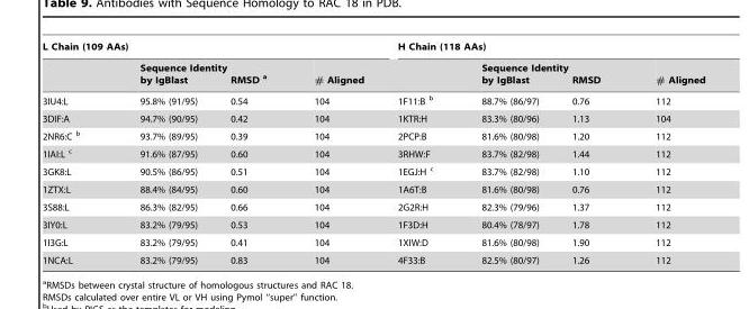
<table><thead><tr><td colspan="4">L Chain (109 AAs)</td><td colspan="4">H Chain (118 AAs)</td></tr><tr><td></td><td>Sequence Identity by IgBlast</td><td>RMSD a</td><td># Aligned</td><td></td><td>Sequence Identity by IgBlast</td><td>RMSD</td><td># Aligned</td></tr></thead><tbody><tr><td>3IU4:L</td><td>95.8% (91/95)</td><td>0.54</td><td>104</td><td>1F11:B b</td><td>88.7% (86/97)</td><td>0.76</td><td>112</td></tr><tr><td>3DIF:A</td><td>94.7% (90/95)</td><td>0.42</td><td>104</td><td>1KTR:H</td><td>83.3% (80/96)</td><td>1.13</td><td>104</td></tr><tr><td>2NR6:C b</td><td>93.7% (89/95)</td><td>0.39</td><td>104</td><td>2PCP:B</td><td>81.6% (80/98)</td><td>1.20</td><td>112</td></tr><tr><td>1IAI:L c</td><td>91.6% (87/95)</td><td>0.60</td><td>104</td><td>3RHW:F</td><td>83.7% (82/98)</td><td>1.44</td><td>112</td></tr><tr><td>3GK8:L</td><td>90.5% (86/95)</td><td>0.51</td><td>104</td><td>1EGJ:H c</td><td>83.7% (82/98)</td><td>1.10</td><td>112</td></tr><tr><td>1ZTX:L</td><td>88.4% (84/95)</td><td>0.60</td><td>104</td><td>1A6T:B</td><td>81.6% (80/98)</td><td>0.76</td><td>112</td></tr><tr><td>3S88:L</td><td>86.3% (82/95)</td><td>0.66</td><td>104</td><td>2G2R:H</td><td>82.3% (79/96)</td><td>1.37</td><td>112</td></tr><tr><td>3IY0:L</td><td>83.2% (79/95)</td><td>0.53</td><td>104</td><td>1F3D:H</td><td>80.4% (78/97)</td><td>1.78</td><td>112</td></tr><tr><td>1I3G:L</td><td>83.2% (79/95)</td><td>0.41</td><td>104</td><td>1XIW:D</td><td>81.6% (80/98)</td><td>1.90</td><td>112</td></tr><tr><td>1NCA:L</td><td>83.2% (79/95)</td><td>0.83</td><td>104</td><td>4F33:B</td><td>82.5% (80/97)</td><td>1.26</td><td>112</td></tr></tbody></table>